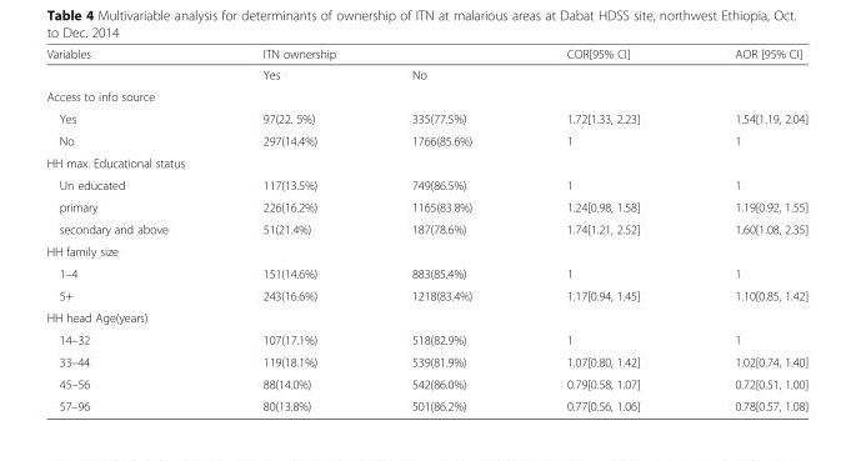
<table><thead><tr><td rowspan="2">Variables</td><td colspan="2">ITN ownership</td><td rowspan="2">COR[95% CI]</td><td rowspan="2">AOR [95% CI]</td></tr><tr><td>Yes</td><td>No</td></tr></thead><tbody><tr><td colspan="5">Access to info source</td></tr><tr><td>Yes</td><td>97(22. 5%)</td><td>335(77.5%)</td><td>1.72[1.33, 2.23]</td><td>1.54[1.19, 2.04]</td></tr><tr><td>No</td><td>297(14.4%)</td><td>1766(85.6%)</td><td>1</td><td>1</td></tr><tr><td colspan="5">HH max. Educational status</td></tr><tr><td>Un educated</td><td>117(13.5%)</td><td>749(86.5%)</td><td>1</td><td>1</td></tr><tr><td>primary</td><td>226(16.2%)</td><td>1165(83.8%)</td><td>1.24[0.98, 1.58]</td><td>1.19[0.92, 1.55]</td></tr><tr><td>secondary and above</td><td>51(21.4%)</td><td>187(78.6%)</td><td>1.74[1.21, 2.52]</td><td>1.60[1.08, 2.35]</td></tr><tr><td colspan="5">HH family size</td></tr><tr><td>1–4</td><td>151(14.6%)</td><td>883(85.4%)</td><td>1</td><td>1</td></tr><tr><td>5+</td><td>243(16.6%)</td><td>1218(83.4%)</td><td>1.17[0.94, 1.45]</td><td>1.10[0.85, 1.42]</td></tr><tr><td colspan="5">HH head Age(years)</td></tr><tr><td>14–32</td><td>107(17.1%)</td><td>518(82.9%)</td><td>1</td><td>1</td></tr><tr><td>33–44</td><td>119(18.1%)</td><td>539(81.9%)</td><td>1.07[0.80, 1.42]</td><td>1.02[0.74, 1.40]</td></tr><tr><td>45–56</td><td>88(14.0%)</td><td>542(86.0%)</td><td>0.79[0.58, 1.07]</td><td>0.72[0.51, 1.00]</td></tr><tr><td>57–96</td><td>80(13.8%)</td><td>501(86.2%)</td><td>0.77[0.56, 1.06]</td><td>0.78[0.57, 1.08]</td></tr></tbody></table>